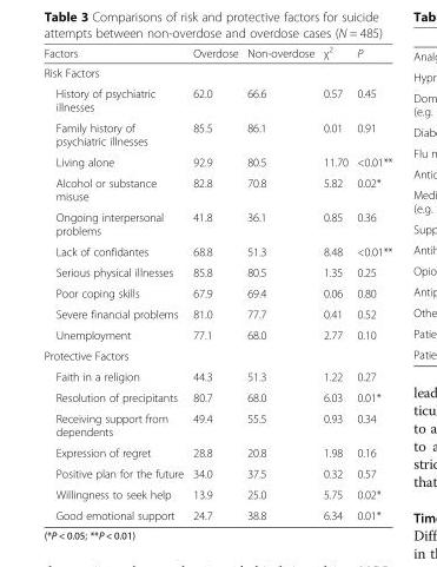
<table><thead><tr><td>Factors</td><td>Overdose</td><td>Non-overdose</td><td>χ<sup>2</sup></td><td>P</td></tr></thead><tbody><tr><td colspan="5">Risk Factors</td></tr><tr><td>History of psychiatric illnesses</td><td>62.0</td><td>66.6</td><td>0.57</td><td>0.45</td></tr><tr><td>Family history of psychiatric illnesses</td><td>85.5</td><td>86.1</td><td>0.01</td><td>0.91</td></tr><tr><td>Living alone</td><td>92.9</td><td>80.5</td><td>11.70</td><td>&lt;0.01**</td></tr><tr><td>Alcohol or substance misuse</td><td>82.8</td><td>70.8</td><td>5.82</td><td>0.02*</td></tr><tr><td>Ongoing interpersonal problems</td><td>41.8</td><td>36.1</td><td>0.85</td><td>0.36</td></tr><tr><td>Lack of confidantes</td><td>68.8</td><td>51.3</td><td>8.48</td><td>&lt;0.01**</td></tr><tr><td>Serious physical illnesses</td><td>85.8</td><td>80.5</td><td>1.35</td><td>0.25</td></tr><tr><td>Poor coping skills</td><td>67.9</td><td>69.4</td><td>0.06</td><td>0.80</td></tr><tr><td>Severe financial problems</td><td>81.0</td><td>77.7</td><td>0.41</td><td>0.52</td></tr><tr><td>Unemployment</td><td>77.1</td><td>68.0</td><td>2.77</td><td>0.10</td></tr><tr><td colspan="5">Protective Factors</td></tr><tr><td>Faith in a religion</td><td>44.3</td><td>51.3</td><td>1.22</td><td>0.27</td></tr><tr><td>Resolution of precipitants</td><td>80.7</td><td>68.0</td><td>6.03</td><td>0.01*</td></tr><tr><td>Receiving support from dependents</td><td>49.4</td><td>55.5</td><td>0.93</td><td>0.34</td></tr><tr><td>Expression of regret</td><td>28.8</td><td>20.8</td><td>1.98</td><td>0.16</td></tr><tr><td>Positive plan for the future</td><td>34.0</td><td>37.5</td><td>0.32</td><td>0.57</td></tr><tr><td>Willingness to seek help</td><td>13.9</td><td>25.0</td><td>5.75</td><td>0.02*</td></tr><tr><td>Good emotional support</td><td>24.7</td><td>38.8</td><td>6.34</td><td>0.01*</td></tr></tbody></table>